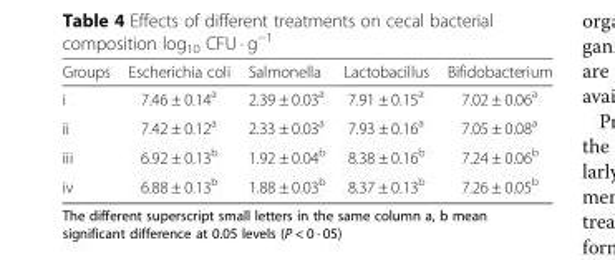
<table><thead><tr><td>Groups</td><td>Escherichia coli</td><td>Salmonella</td><td>Lactobacillus</td><td>Bifidobacterium</td></tr></thead><tbody><tr><td>i</td><td>7.46 ± 0.14<sup>a</sup></td><td>2.39 ± 0.03<sup>a</sup></td><td>7.91 ± 0.15<sup>a</sup></td><td>7.02 ± 0.06<sup>a</sup></td></tr><tr><td>ii</td><td>7.42 ± 0.12<sup>a</sup></td><td>2.33 ± 0.03<sup>a</sup></td><td>7.93 ± 0.16<sup>a</sup></td><td>7.05 ± 0.08<sup>a</sup></td></tr><tr><td>iii</td><td>6.92 ± 0.13<sup>b</sup></td><td>1.92 ± 0.04<sup>b</sup></td><td>8.38 ± 0.16<sup>b</sup></td><td>7.24 ± 0.06<sup>b</sup></td></tr><tr><td>iv</td><td>6.88 ± 0.13<sup>b</sup></td><td>1.88 ± 0.03<sup>b</sup></td><td>8.37 ± 0.13<sup>b</sup></td><td>7.26 ± 0.05<sup>b</sup></td></tr></tbody></table>